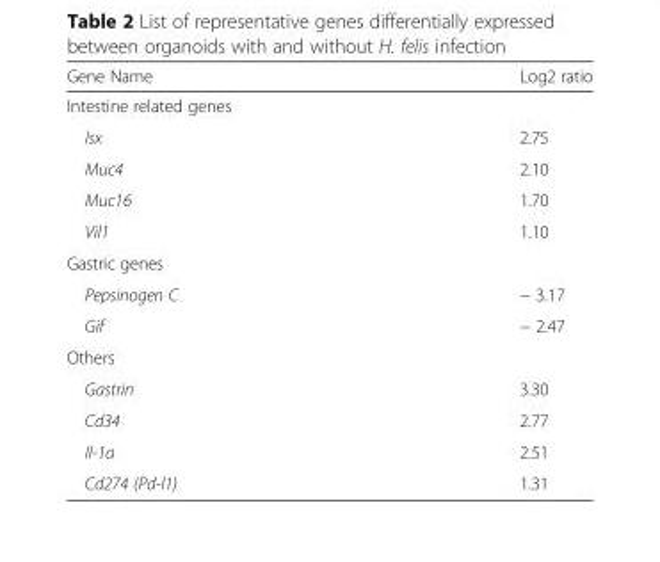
<table><thead><tr><td>Gene Name</td><td>Log2 ratio</td></tr></thead><tbody><tr><td colspan="2">Intestine related genes</td></tr><tr><td>Isx</td><td>2.75</td></tr><tr><td>Muc4</td><td>2.10</td></tr><tr><td>Muc16</td><td>1.70</td></tr><tr><td>Vil1</td><td>1.10</td></tr><tr><td colspan="2">Gastric genes</td></tr><tr><td>Pepsinogen C</td><td>− 3.17</td></tr><tr><td>Gif</td><td>− 2.47</td></tr><tr><td colspan="2">Others</td></tr><tr><td>Gastrin</td><td>3.30</td></tr><tr><td>Cd34</td><td>2.77</td></tr><tr><td>Il-1a</td><td>2.51</td></tr><tr><td>Cd274 (Pd-l1)</td><td>1.31</td></tr></tbody></table>